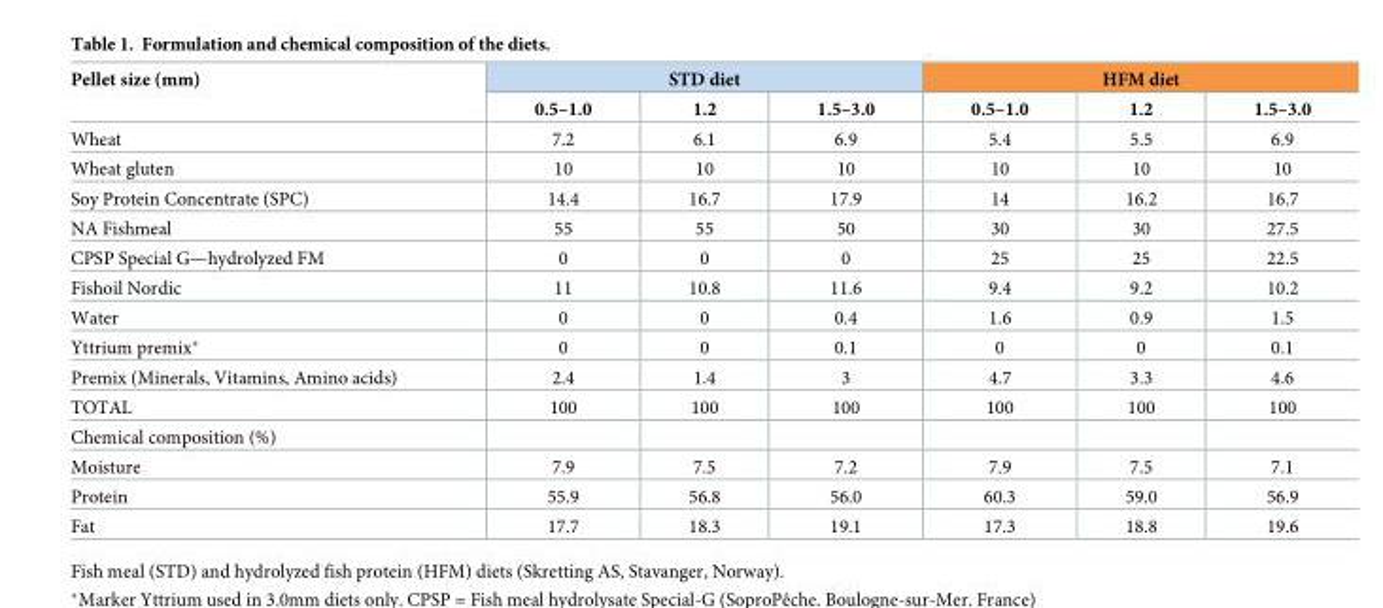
<table><thead><tr><td rowspan="2">Pellet size (mm)</td><td colspan="3">STD diet</td><td colspan="3">HFM diet</td></tr><tr><td>0.5–1.0</td><td>1.2</td><td>1.5–3.0</td><td>0.5–1.0</td><td>1.2</td><td>1.5–3.0</td></tr></thead><tbody><tr><td>Wheat</td><td>7.2</td><td>6.1</td><td>6.9</td><td>5.4</td><td>5.5</td><td>6.9</td></tr><tr><td>Wheat gluten</td><td>10</td><td>10</td><td>10</td><td>10</td><td>10</td><td>10</td></tr><tr><td>Soy Protein Concentrate (SPC)</td><td>14.4</td><td>16.7</td><td>17.9</td><td>14</td><td>16.2</td><td>16.7</td></tr><tr><td>NA Fishmeal</td><td>55</td><td>55</td><td>50</td><td>30</td><td>30</td><td>27.5</td></tr><tr><td>CPSP Special G—hydrolyzed FM</td><td>0</td><td>0</td><td>0</td><td>25</td><td>25</td><td>22.5</td></tr><tr><td>Fishoil Nordic</td><td>11</td><td>10.8</td><td>11.6</td><td>9.4</td><td>9.2</td><td>10.2</td></tr><tr><td>Water</td><td>0</td><td>0</td><td>0.4</td><td>1.6</td><td>0.9</td><td>1.5</td></tr><tr><td>Yttrium premix*</td><td>0</td><td>0</td><td>0.1</td><td>0</td><td>0</td><td>0.1</td></tr><tr><td>Premix (Minerals, Vitamins, Amino acids)</td><td>2.4</td><td>1.4</td><td>3</td><td>4.7</td><td>3.3</td><td>4.6</td></tr><tr><td>TOTAL</td><td>100</td><td>100</td><td>100</td><td>100</td><td>100</td><td>100</td></tr><tr><td colspan="7">Chemical composition (%)</td></tr><tr><td>Moisture</td><td>7.9</td><td>7.5</td><td>7.2</td><td>7.9</td><td>7.5</td><td>7.1</td></tr><tr><td>Protein</td><td>55.9</td><td>56.8</td><td>56.0</td><td>60.3</td><td>59.0</td><td>56.9</td></tr><tr><td>Fat</td><td>17.7</td><td>18.3</td><td>19.1</td><td>17.3</td><td>18.8</td><td>19.6</td></tr></tbody></table>